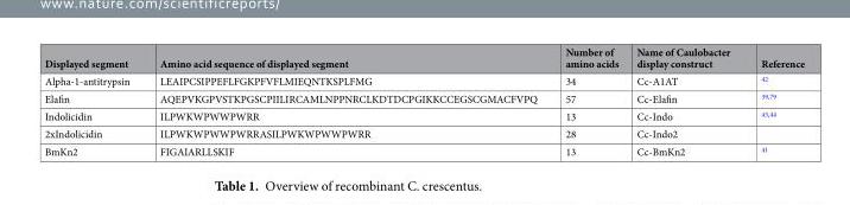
<table><thead><tr><td>Displayed segment</td><td>Amino acid sequence of displayed segment</td><td>Number of amino acids</td><td>Name of Caulobacter display construct</td><td>Reference</td></tr></thead><tbody><tr><td>Alpha-1-antitrypsin</td><td>LEAIPCSIPPEFLFGKPFVFLMIEQNTKSPLFMG</td><td>34</td><td>Cc-A1AT</td><td><sup>42</sup></td></tr><tr><td>Elafin</td><td>AQEPVKGPVSTKPGSCPIILIRCAMLNPPNRCLKDTDCPGIKKCCEGSCGMACFVPQ</td><td>57</td><td>Cc-Elafin</td><td><sup>39,79</sup></td></tr><tr><td>Indolicidin</td><td>ILPWKWPWWPWRR</td><td>13</td><td>Cc-Indo</td><td><sup>43,44</sup></td></tr><tr><td>2xIndolicidin</td><td>ILPWKWPWWPWRRASILPWKWPWWPWRR</td><td>28</td><td>Cc-Indo2</td><td></td></tr><tr><td>BmKn2</td><td>FIGAIARLLSKIF</td><td>13</td><td>Cc-BmKn2</td><td><sup>41</sup></td></tr></tbody></table>